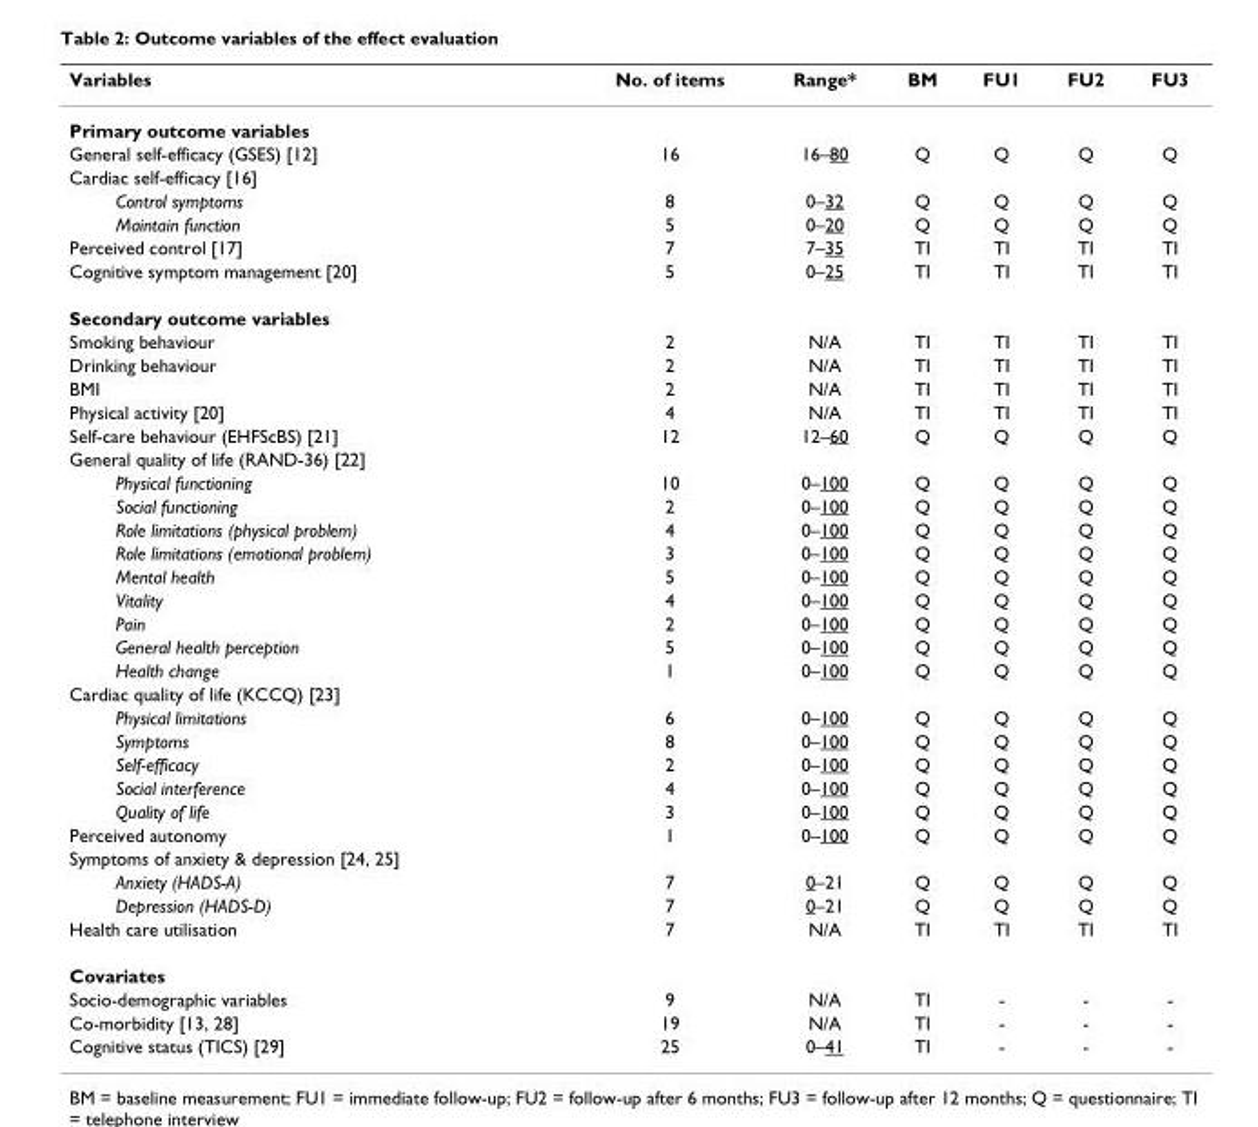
<table><thead><tr><td>Variables</td><td>No. of items</td><td>Range*</td><td>BM</td><td>FU1</td><td>FU2</td><td>FU3</td></tr></thead><tbody><tr><td colspan="7">Primary outcome variables</td></tr><tr><td>General self-efficacy (GSES) [12]</td><td>16</td><td>16–80</td><td>Q</td><td>Q</td><td>Q</td><td>Q</td></tr><tr><td colspan="7">Cardiac self-efficacy [16]</td></tr><tr><td>Control symptoms</td><td>8</td><td>0–32</td><td>Q</td><td>Q</td><td>Q</td><td>Q</td></tr><tr><td>Maintain function</td><td>5</td><td>0–20</td><td>Q</td><td>Q</td><td>Q</td><td>Q</td></tr><tr><td>Perceived control [17]</td><td>7</td><td>7–35</td><td>TI</td><td>TI</td><td>TI</td><td>TI</td></tr><tr><td>Cognitive symptom management [20]</td><td>5</td><td>0–25</td><td>TI</td><td>TI</td><td>TI</td><td>TI</td></tr><tr><td colspan="7">Secondary outcome variables</td></tr><tr><td>Smoking behaviour</td><td>2</td><td>N/A</td><td>TI</td><td>TI</td><td>TI</td><td>TI</td></tr><tr><td>Drinking behaviour</td><td>2</td><td>N/A</td><td>TI</td><td>TI</td><td>TI</td><td>TI</td></tr><tr><td>BMI</td><td>2</td><td>N/A</td><td>TI</td><td>TI</td><td>TI</td><td>TI</td></tr><tr><td>Physical activity [20]</td><td>4</td><td>N/A</td><td>TI</td><td>TI</td><td>TI</td><td>TI</td></tr><tr><td>Self-care behaviour (EHFScBS) [21]</td><td>12</td><td>12–60</td><td>Q</td><td>Q</td><td>Q</td><td>Q</td></tr><tr><td colspan="7">General quality of life (RAND-36) [22]</td></tr><tr><td>Physical functioning</td><td>10</td><td>0–100</td><td>Q</td><td>Q</td><td>Q</td><td>Q</td></tr><tr><td>Social functioning</td><td>2</td><td>0–100</td><td>Q</td><td>Q</td><td>Q</td><td>Q</td></tr><tr><td>Role limitations (physical problem)</td><td>4</td><td>0–100</td><td>Q</td><td>Q</td><td>Q</td><td>Q</td></tr><tr><td>Role limitations (emotional problem)</td><td>3</td><td>0–100</td><td>Q</td><td>Q</td><td>Q</td><td>Q</td></tr><tr><td>Mental health</td><td>5</td><td>0–100</td><td>Q</td><td>Q</td><td>Q</td><td>Q</td></tr><tr><td>Vitality</td><td>4</td><td>0–100</td><td>Q</td><td>Q</td><td>Q</td><td>Q</td></tr><tr><td>Pain</td><td>2</td><td>0–100</td><td>Q</td><td>Q</td><td>Q</td><td>Q</td></tr><tr><td>General health perception</td><td>5</td><td>0–100</td><td>Q</td><td>Q</td><td>Q</td><td>Q</td></tr><tr><td>Health change</td><td>1</td><td>0–100</td><td>Q</td><td>Q</td><td>Q</td><td>Q</td></tr><tr><td colspan="7">Cardiac quality of life (KCCQ) [23]</td></tr><tr><td>Physical limitations</td><td>6</td><td>0–100</td><td>Q</td><td>Q</td><td>Q</td><td>Q</td></tr><tr><td>Symptoms</td><td>8</td><td>0–100</td><td>Q</td><td>Q</td><td>Q</td><td>Q</td></tr><tr><td>Self-efficacy</td><td>2</td><td>0–100</td><td>Q</td><td>Q</td><td>Q</td><td>Q</td></tr><tr><td>Social interference</td><td>4</td><td>0–100</td><td>Q</td><td>Q</td><td>Q</td><td>Q</td></tr><tr><td>Quality of life</td><td>3</td><td>0–100</td><td>Q</td><td>Q</td><td>Q</td><td>Q</td></tr><tr><td>Perceived autonomy</td><td>1</td><td>0–100</td><td>Q</td><td>Q</td><td>Q</td><td>Q</td></tr><tr><td colspan="7">Symptoms of anxiety &amp; depression [24, 25]</td></tr><tr><td>Anxiety (HADS-A)</td><td>7</td><td>0–21</td><td>Q</td><td>Q</td><td>Q</td><td>Q</td></tr><tr><td>Depression (HADS-D)</td><td>7</td><td>0–21</td><td>Q</td><td>Q</td><td>Q</td><td>Q</td></tr><tr><td>Health care utilisation</td><td>7</td><td>N/A</td><td>TI</td><td>TI</td><td>TI</td><td>TI</td></tr><tr><td colspan="7">Covariates</td></tr><tr><td>Socio-demographic variables</td><td>9</td><td>N/A</td><td>TI</td><td>-</td><td>-</td><td>-</td></tr><tr><td>Co-morbidity [13, 28]</td><td>19</td><td>N/A</td><td>TI</td><td>-</td><td>-</td><td>-</td></tr><tr><td>Cognitive status (TICS) [29]</td><td>25</td><td>0–41</td><td>TI</td><td>-</td><td>-</td><td>-</td></tr></tbody></table>